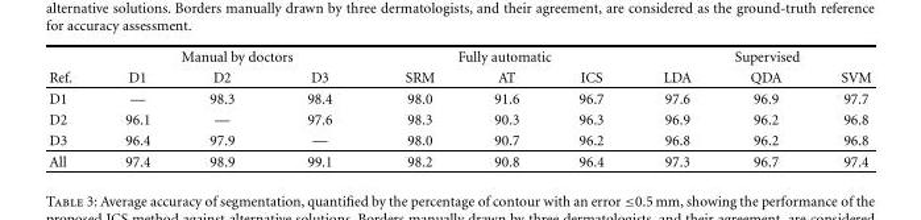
<table><thead><tr><td rowspan="2">Ref.</td><td colspan="3">Manual by doctors</td><td colspan="3">Fully automatic</td><td colspan="3">Supervised</td></tr><tr><td>D1</td><td>D2</td><td>D3</td><td>SRM</td><td>AT</td><td>ICS</td><td>LDA</td><td>QDA</td><td>SVM</td></tr></thead><tbody><tr><td>D1</td><td>—</td><td>98.3</td><td>98.4</td><td>98.0</td><td>91.6</td><td>96.7</td><td>97.6</td><td>96.9</td><td>97.7</td></tr><tr><td>D2</td><td>96.1</td><td>—</td><td>97.6</td><td>98.3</td><td>90.3</td><td>96.3</td><td>96.9</td><td>96.2</td><td>96.8</td></tr><tr><td>D3</td><td>96.4</td><td>97.9</td><td>—</td><td>98.0</td><td>90.7</td><td>96.2</td><td>96.8</td><td>96.2</td><td>96.8</td></tr><tr><td>All</td><td>97.4</td><td>98.9</td><td>99.1</td><td>98.2</td><td>90.8</td><td>96.4</td><td>97.3</td><td>96.7</td><td>97.4</td></tr></tbody></table>